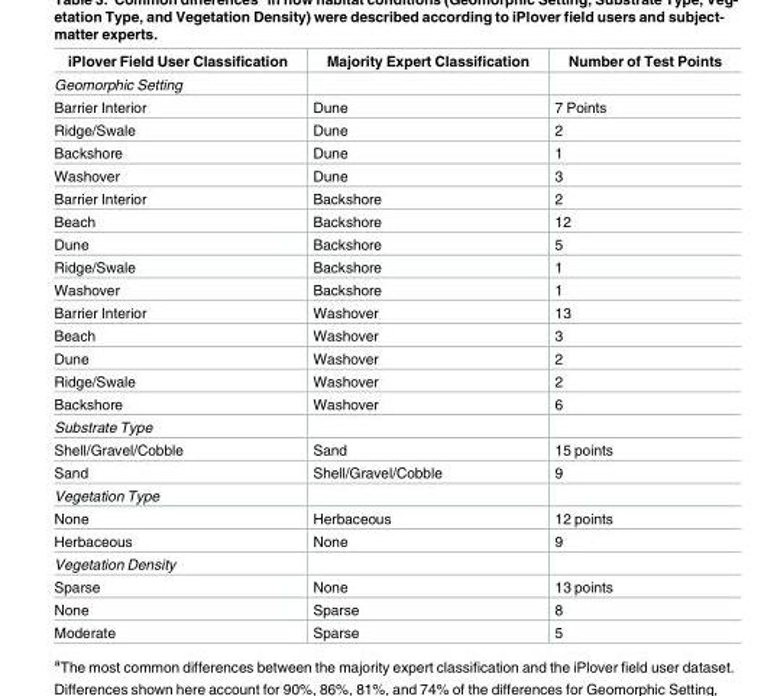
<table><thead><tr><td>iPlover Field User Classification</td><td>Majority Expert Classification</td><td>Number of Test Points</td></tr></thead><tbody><tr><td colspan="3">Geomorphic Setting</td></tr><tr><td>Barrier Interior</td><td>Dune</td><td>7 Points</td></tr><tr><td>Ridge/Swale</td><td>Dune</td><td>2</td></tr><tr><td>Backshore</td><td>Dune</td><td>1</td></tr><tr><td>Washover</td><td>Dune</td><td>3</td></tr><tr><td>Barrier Interior</td><td>Backshore</td><td>2</td></tr><tr><td>Beach</td><td>Backshore</td><td>12</td></tr><tr><td>Dune</td><td>Backshore</td><td>5</td></tr><tr><td>Ridge/Swale</td><td>Backshore</td><td>1</td></tr><tr><td>Washover</td><td>Backshore</td><td>1</td></tr><tr><td>Barrier Interior</td><td>Washover</td><td>13</td></tr><tr><td>Beach</td><td>Washover</td><td>3</td></tr><tr><td>Dune</td><td>Washover</td><td>2</td></tr><tr><td>Ridge/Swale</td><td>Washover</td><td>2</td></tr><tr><td>Backshore</td><td>Washover</td><td>6</td></tr><tr><td colspan="3">Substrate Type</td></tr><tr><td>Shell/Gravel/Cobble</td><td>Sand</td><td>15 points</td></tr><tr><td>Sand</td><td>Shell/Gravel/Cobble</td><td>9</td></tr><tr><td colspan="3">Vegetation Type</td></tr><tr><td>None</td><td>Herbaceous</td><td>12 points</td></tr><tr><td>Herbaceous</td><td>None</td><td>9</td></tr><tr><td colspan="3">Vegetation Density</td></tr><tr><td>Sparse</td><td>None</td><td>13 points</td></tr><tr><td>None</td><td>Sparse</td><td>8</td></tr><tr><td>Moderate</td><td>Sparse</td><td>5</td></tr></tbody></table>